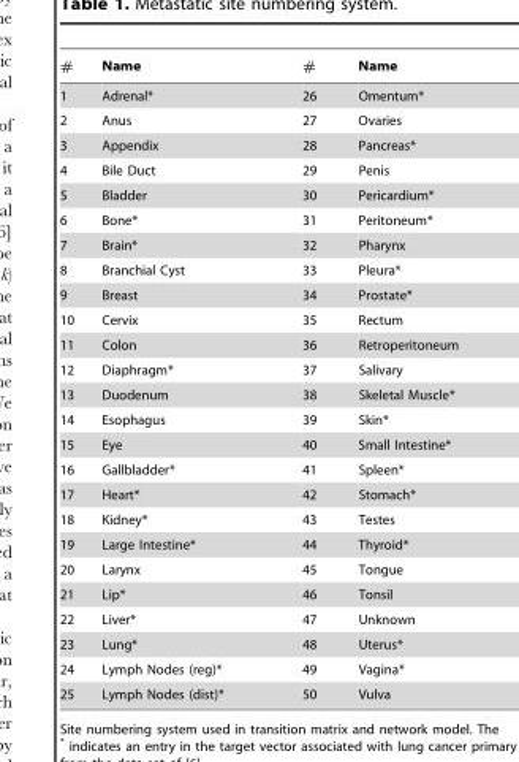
<table><thead><tr><td>#</td><td>Name</td><td>#</td><td>Name</td></tr></thead><tbody><tr><td>1</td><td>Adrenal*</td><td>26</td><td>Omentum*</td></tr><tr><td>2</td><td>Anus</td><td>27</td><td>Ovaries</td></tr><tr><td>3</td><td>Appendix</td><td>28</td><td>Pancreas*</td></tr><tr><td>4</td><td>Bile Duct</td><td>29</td><td>Penis</td></tr><tr><td>5</td><td>Bladder</td><td>30</td><td>Pericardium*</td></tr><tr><td>6</td><td>Bone*</td><td>31</td><td>Peritoneum*</td></tr><tr><td>7</td><td>Brain*</td><td>32</td><td>Pharynx</td></tr><tr><td>8</td><td>Branchial Cyst</td><td>33</td><td>Pleura*</td></tr><tr><td>9</td><td>Breast</td><td>34</td><td>Prostate*</td></tr><tr><td>10</td><td>Cervix</td><td>35</td><td>Rectum</td></tr><tr><td>11</td><td>Colon</td><td>36</td><td>Retroperitoneum</td></tr><tr><td>12</td><td>Diaphragm*</td><td>37</td><td>Salivary</td></tr><tr><td>13</td><td>Duodenum</td><td>38</td><td>Skeletal Muscle*</td></tr><tr><td>14</td><td>Esophagus</td><td>39</td><td>Skin*</td></tr><tr><td>15</td><td>Eye</td><td>40</td><td>Small Intestine*</td></tr><tr><td>16</td><td>Gallbladder*</td><td>41</td><td>Spleen*</td></tr><tr><td>17</td><td>Heart*</td><td>42</td><td>Stomach*</td></tr><tr><td>18</td><td>Kidney*</td><td>43</td><td>Testes</td></tr><tr><td>19</td><td>Large Intestine*</td><td>44</td><td>Thyroid*</td></tr><tr><td>20</td><td>Larynx</td><td>45</td><td>Tongue</td></tr><tr><td>21</td><td>Lip*</td><td>46</td><td>Tonsil</td></tr><tr><td>22</td><td>Liver*</td><td>47</td><td>Unknown</td></tr><tr><td>23</td><td>Lung*</td><td>48</td><td>Uterus*</td></tr><tr><td>24</td><td>Lymph Nodes (reg)*</td><td>49</td><td>Vagina*</td></tr><tr><td>25</td><td>Lymph Nodes (dist)*</td><td>50</td><td>Vulva</td></tr></tbody></table>